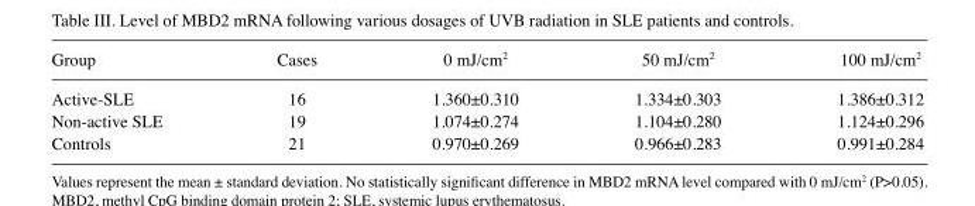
<table><thead><tr><td>Group</td><td>Cases</td><td>0 mJ/cm<sup>2</sup></td><td>50 mJ/cm<sup>2</sup></td><td>100 mJ/cm<sup>2</sup></td></tr></thead><tbody><tr><td>Active-SLE</td><td>16</td><td>1.360±0.310</td><td>1.334±0.303</td><td>1.386±0.312</td></tr><tr><td>Non-active SLE</td><td>19</td><td>1.074±0.274</td><td>1.104±0.280</td><td>1.124±0.296</td></tr><tr><td>Controls</td><td>21</td><td>0.970±0.269</td><td>0.966±0.283</td><td>0.991±0.284</td></tr></tbody></table>